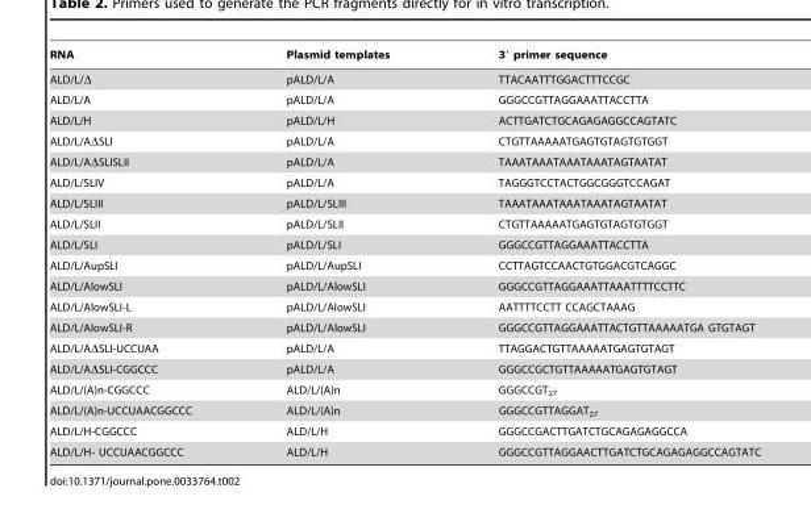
<table><thead><tr><td>RNA</td><td>Plasmid templates</td><td>3′ primer sequence</td></tr></thead><tbody><tr><td>ALD/L/Δ</td><td>pALD/L/A</td><td>TTACAATTTGGACTTTCCGC</td></tr><tr><td>ALD/L/A</td><td>pALD/L/A</td><td>GGGCCGTTAGGAAATTACCTTA</td></tr><tr><td>ALD/L/H</td><td>pALD/L/H</td><td>ACTTGATCTGCAGAGAGGCCAGTATC</td></tr><tr><td>ALD/L/AΔSLI</td><td>pALD/L/A</td><td>CTGTTAAAAATGAGTGTAGTGTGGT</td></tr><tr><td>ALD/L/AΔSLISLII</td><td>pALD/L/A</td><td>TAAATAAATAAATAAATAGTAATAT</td></tr><tr><td>ALD/L/SLIV</td><td>pALD/L/A</td><td>TAGGGTCCTACTGGCGGGTCCAGAT</td></tr><tr><td>ALD/L/SLIII</td><td>pALD/L/SLIII</td><td>TAAATAAATAAATAAATAGTAATAT</td></tr><tr><td>ALD/L/SLII</td><td>pALD/L/SLII</td><td>CTGTTAAAAATGAGTGTAGTGTGGT</td></tr><tr><td>ALD/L/SLI</td><td>pALD/L/SLI</td><td>GGGCCGTTAGGAAATTACCTTA</td></tr><tr><td>ALD/L/AupSLI</td><td>pALD/L/AupSLI</td><td>CCTTAGTCCAACTGTGGACGTCAGGC</td></tr><tr><td>ALD/L/AlowSLI</td><td>pALD/L/AlowSLI</td><td>GGGCCGTTAGGAAATTAAATTTTCCTTC</td></tr><tr><td>ALD/L/AlowSLI-L</td><td>pALD/L/AlowSLI</td><td>AATTTTCCTT CCAGCTAAAG</td></tr><tr><td>ALD/L/AlowSLI-R</td><td>pALD/L/AlowSLI</td><td>GGGCCGTTAGGAAATTACTGTTAAAAATGA GTGTAGT</td></tr><tr><td>ALD/L/AΔSLI-UCCUAA</td><td>pALD/L/A</td><td>TTAGGACTGTTAAAAATGAGTGTAGT</td></tr><tr><td>ALD/L/AΔSLI-CGGCCC</td><td>pALD/L/A</td><td>GGGCCGCTGTTAAAAATGAGTGTAGT</td></tr><tr><td>ALD/L/(A)n-CGGCCC</td><td>ALD/L/(A)n</td><td>GGGCCGT<sub>27</sub></td></tr><tr><td>ALD/L/(A)n-UCCUAACGGCCC</td><td>ALD/L/(A)n</td><td>GGGCCGTTAGGAT<sub>27</sub></td></tr><tr><td>ALD/L/H-CGGCCC</td><td>ALD/L/H</td><td>GGGCCGACTTGATCTGCAGAGAGGCCA</td></tr><tr><td>ALD/L/H- UCCUAACGGCCC</td><td>ALD/L/H</td><td>GGGCCGTTAGGAACTTGATCTGCAGAGAGGCCAGTATC</td></tr></tbody></table>